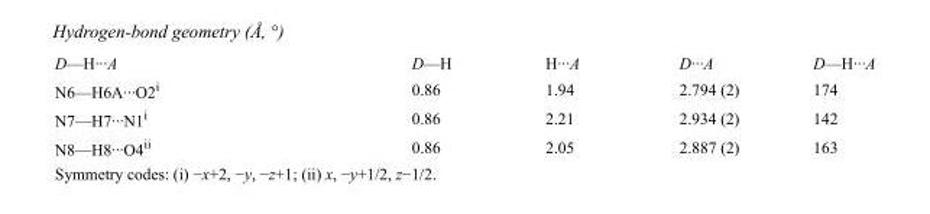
<table><tbody><tr><td>D—H···A</td><td>D—H</td><td>H···A</td><td>D···A</td><td>D—H···A</td></tr><tr><td>N6—H6A···O2<sup>i</sup></td><td>0.86</td><td>1.94</td><td>2.794 (2)</td><td>174</td></tr><tr><td>N7—H7···N1<sup>i</sup></td><td>0.86</td><td>2.21</td><td>2.934 (2)</td><td>142</td></tr><tr><td>N8—H8···O4<sup>ii</sup></td><td>0.86</td><td>2.05</td><td>2.887 (2)</td><td>163</td></tr></tbody></table>